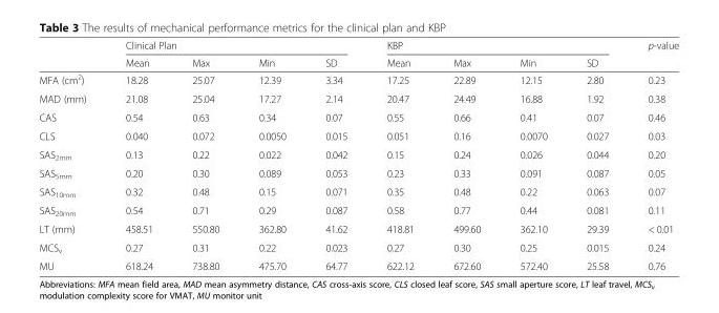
<table><thead><tr><td rowspan="2"></td><td colspan="4">Clinical Plan</td><td colspan="4">KBP</td><td rowspan="2">p-value</td></tr><tr><td>Mean</td><td>Max</td><td>Min</td><td>SD</td><td>Mean</td><td>Max</td><td>Min</td><td>SD</td></tr></thead><tbody><tr><td>MFA (cm<sup>2</sup>)</td><td>18.28</td><td>25.07</td><td>12.39</td><td>3.34</td><td>17.25</td><td>22.89</td><td>12.15</td><td>2.80</td><td>0.23</td></tr><tr><td>MAD (mm)</td><td>21.08</td><td>25.04</td><td>17.27</td><td>2.14</td><td>20.47</td><td>24.49</td><td>16.88</td><td>1.92</td><td>0.38</td></tr><tr><td>CAS</td><td>0.54</td><td>0.63</td><td>0.34</td><td>0.07</td><td>0.55</td><td>0.66</td><td>0.41</td><td>0.07</td><td>0.46</td></tr><tr><td>CLS</td><td>0.040</td><td>0.072</td><td>0.0050</td><td>0.015</td><td>0.051</td><td>0.16</td><td>0.0070</td><td>0.027</td><td>0.03</td></tr><tr><td>SAS<sub>2mm</sub></td><td>0.13</td><td>0.22</td><td>0.022</td><td>0.042</td><td>0.15</td><td>0.24</td><td>0.026</td><td>0.044</td><td>0.20</td></tr><tr><td>SAS<sub>5mm</sub></td><td>0.20</td><td>0.30</td><td>0.089</td><td>0.053</td><td>0.23</td><td>0.33</td><td>0.091</td><td>0.087</td><td>0.05</td></tr><tr><td>SAS<sub>10mm</sub></td><td>0.32</td><td>0.48</td><td>0.15</td><td>0.071</td><td>0.35</td><td>0.48</td><td>0.22</td><td>0.063</td><td>0.07</td></tr><tr><td>SAS<sub>20mm</sub></td><td>0.54</td><td>0.71</td><td>0.29</td><td>0.087</td><td>0.58</td><td>0.77</td><td>0.44</td><td>0.081</td><td>0.11</td></tr><tr><td>LT (mm)</td><td>458.51</td><td>550.80</td><td>362.80</td><td>41.62</td><td>418.81</td><td>499.60</td><td>362.10</td><td>29.39</td><td>&lt; 0.01</td></tr><tr><td>MCS<sub>v</sub></td><td>0.27</td><td>0.31</td><td>0.22</td><td>0.023</td><td>0.27</td><td>0.30</td><td>0.25</td><td>0.015</td><td>0.24</td></tr><tr><td>MU</td><td>618.24</td><td>738.80</td><td>475.70</td><td>64.77</td><td>622.12</td><td>672.60</td><td>572.40</td><td>25.58</td><td>0.76</td></tr></tbody></table>